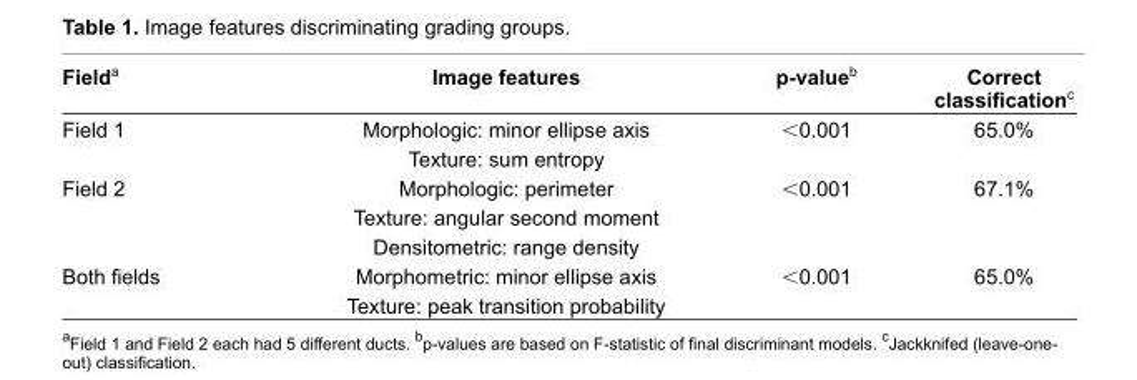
<table><thead><tr><td>Field<sup>a</sup></td><td>Image features</td><td>p-value<sup>b</sup></td><td>Correct classifi cation<sup>c</sup></td></tr></thead><tbody><tr><td rowspan="2">Field 1</td><td>Morphologic: minor ellipse axis</td><td>&lt;0.001</td><td>65.0%</td></tr><tr><td>Texture: sum entropy</td><td></td><td></td></tr><tr><td rowspan="3">Field 2</td><td>Morphologic: perimeter</td><td>&lt;0.001</td><td>67.1%</td></tr><tr><td>Texture: angular second moment</td><td></td><td></td></tr><tr><td>Densitometric: range density</td><td></td><td></td></tr><tr><td rowspan="2">Both fi elds</td><td>Morphometric: minor ellipse axis</td><td>&lt;0.001</td><td>65.0%</td></tr><tr><td>Texture: peak transition probability</td><td></td><td></td></tr></tbody></table>